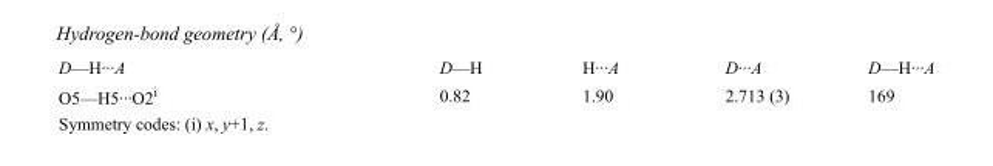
<table><tbody><tr><td>D—H···A</td><td>D—H</td><td>H···A</td><td>D···A</td><td>D—H···A</td></tr><tr><td>O5—H5···O2<sup>i</sup></td><td>0.82</td><td>1.90</td><td>2.713 (3)</td><td>169</td></tr></tbody></table>